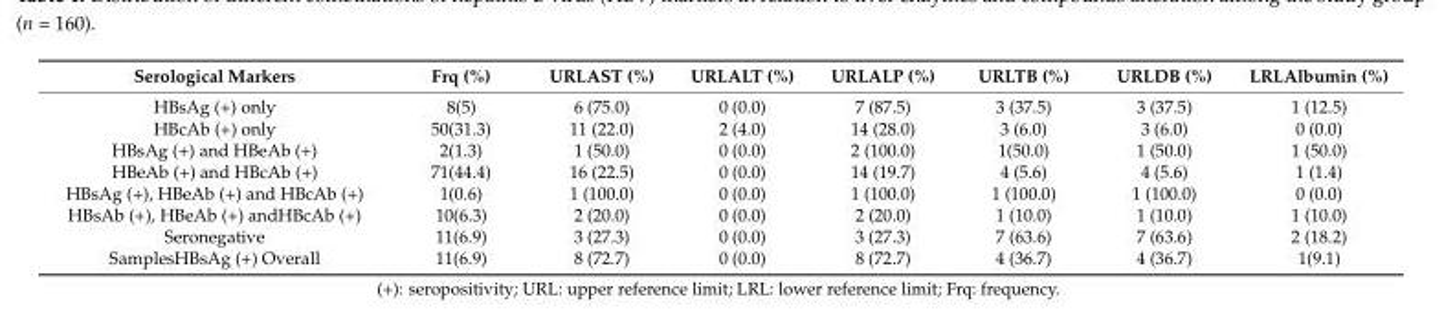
<table><thead><tr><td>Serological Markers</td><td>Frq (%)</td><td>URLAST (%)</td><td>URLALT (%)</td><td>URLALP (%)</td><td>URLTB (%)</td><td>URLDB (%)</td><td>LRLAlbumin (%)</td></tr></thead><tbody><tr><td>HBsAg (+) only</td><td>8(5)</td><td>6 (75.0)</td><td>0 (0.0)</td><td>7 (87.5)</td><td>3 (37.5)</td><td>3 (37.5)</td><td>1 (12.5)</td></tr><tr><td>HBcAb (+) only</td><td>50(31.3)</td><td>11 (22.0)</td><td>2 (4.0)</td><td>14 (28.0)</td><td>3 (6.0)</td><td>3 (6.0)</td><td>0 (0.0)</td></tr><tr><td>HBsAg (+) and HBeAb (+)</td><td>2(1.3)</td><td>1 (50.0)</td><td>0 (0.0)</td><td>2 (100.0)</td><td>1(50.0)</td><td>1 (50.0)</td><td>1 (50.0)</td></tr><tr><td>HBeAb (+) and HBcAb (+)</td><td>71(44.4)</td><td>16 (22.5)</td><td>0 (0.0)</td><td>14 (19.7)</td><td>4 (5.6)</td><td>4 (5.6)</td><td>1 (1.4)</td></tr><tr><td>HBsAg (+), HBeAb (+) and HBcAb (+)</td><td>1(0.6)</td><td>1 (100.0)</td><td>0 (0.0)</td><td>1 (100.0)</td><td>1 (100.0)</td><td>1 (100.0)</td><td>0 (0.0)</td></tr><tr><td>HBsAb (+), HBeAb (+) andHBcAb (+)</td><td>10(6.3)</td><td>2 (20.0)</td><td>0 (0.0)</td><td>2 (20.0)</td><td>1 (10.0)</td><td>1 (10.0)</td><td>1 (10.0)</td></tr><tr><td>Seronegative</td><td>11(6.9)</td><td>3 (27.3)</td><td>0 (0.0)</td><td>3 (27.3)</td><td>7 (63.6)</td><td>7 (63.6)</td><td>2 (18.2)</td></tr><tr><td>SamplesHBsAg (+) Overall</td><td>11(6.9)</td><td>8 (72.7)</td><td>0 (0.0)</td><td>8 (72.7)</td><td>4 (36.7)</td><td>4 (36.7)</td><td>1(9.1)</td></tr></tbody></table>